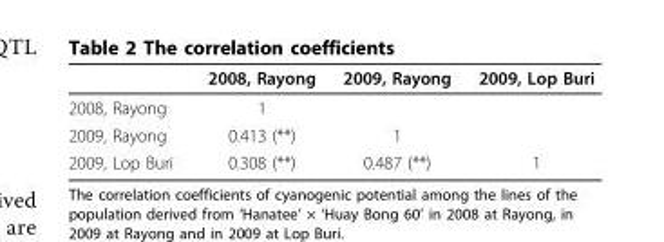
<table><thead><tr><td></td><td>2008, Rayong</td><td>2009, Rayong</td><td>2009, Lop Buri</td></tr></thead><tbody><tr><td>2008, Rayong</td><td>1</td><td></td><td></td></tr><tr><td>2009, Rayong</td><td>0.413 (**)</td><td>1</td><td></td></tr><tr><td>2009, Lop Buri</td><td>0.308 (**)</td><td>0.487 (**)</td><td>1</td></tr></tbody></table>